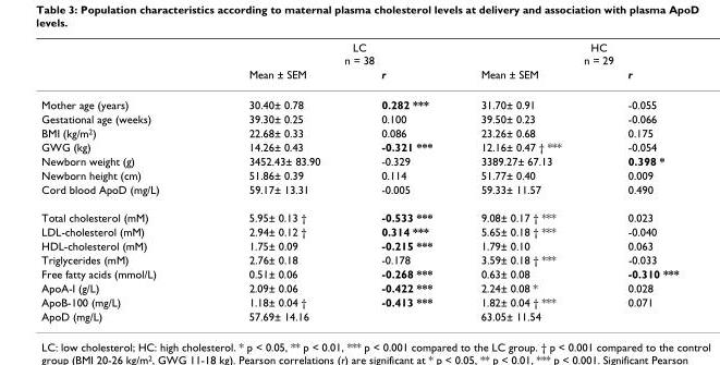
<table><thead><tr><td rowspan="2"></td><td colspan="2">LC n = 38</td><td colspan="2">HC n = 29</td></tr><tr><td>Mean ± SEM</td><td>r</td><td>Mean ± SEM</td><td>r</td></tr></thead><tbody><tr><td>Mother age (years)</td><td>30.40± 0.78</td><td>0.282 ***</td><td>31.70± 0.91</td><td>-0.055</td></tr><tr><td>Gestational age (weeks)</td><td>39.30± 0.25</td><td>0.100</td><td>39.50± 0.23</td><td>-0.066</td></tr><tr><td>BMI (kg/m<sup>2</sup>)</td><td>22.68± 0.33</td><td>0.086</td><td>23.26± 0.68</td><td>0.175</td></tr><tr><td>GWG (kg)</td><td>14.26± 0.43</td><td>-0.321 ***</td><td>12.16± 0.47 † ***</td><td>-0.054</td></tr><tr><td>Newborn weight (g)</td><td>3452.43± 83.90</td><td>-0.329</td><td>3389.27± 67.13</td><td>0.398 *</td></tr><tr><td>Newborn height (cm)</td><td>51.86± 0.39</td><td>0.114</td><td>51.77± 0.40</td><td>0.009</td></tr><tr><td>Cord blood ApoD (mg/L)</td><td>59.17± 13.31</td><td>-0.005</td><td>59.33± 11.57</td><td>0.490</td></tr><tr><td>Total cholesterol (mM)</td><td>5.95± 0.13 †</td><td>-0.533 ***</td><td>9.08± 0.17 † ***</td><td>0.023</td></tr><tr><td>LDL-cholesterol (mM)</td><td>2.94± 0.12 †</td><td>0.314 ***</td><td>5.65± 0.18 † ***</td><td>-0.040</td></tr><tr><td>HDL-cholesterol (mM)</td><td>1.75± 0.09</td><td>-0.215 ***</td><td>1.79± 0.10</td><td>0.063</td></tr><tr><td>Triglycerides (mM)</td><td>2.76± 0.18</td><td>-0.178</td><td>3.59± 0.18 † ***</td><td>-0.033</td></tr><tr><td>Free fatty acids (mmol/L)</td><td>0.51± 0.06</td><td>-0.268 ***</td><td>0.63± 0.08</td><td>-0.310 ***</td></tr><tr><td>ApoA-I (g/L)</td><td>2.09± 0.06</td><td>-0.422 ***</td><td>2.24± 0.08 *</td><td>0.028</td></tr><tr><td>ApoB-100 (mg/L)</td><td>1.18± 0.04 †</td><td>-0.413 ***</td><td>1.82± 0.04 † ***</td><td>0.071</td></tr><tr><td>ApoD (mg/L)</td><td>57.69± 14.16</td><td></td><td>63.05± 11.54</td><td></td></tr></tbody></table>